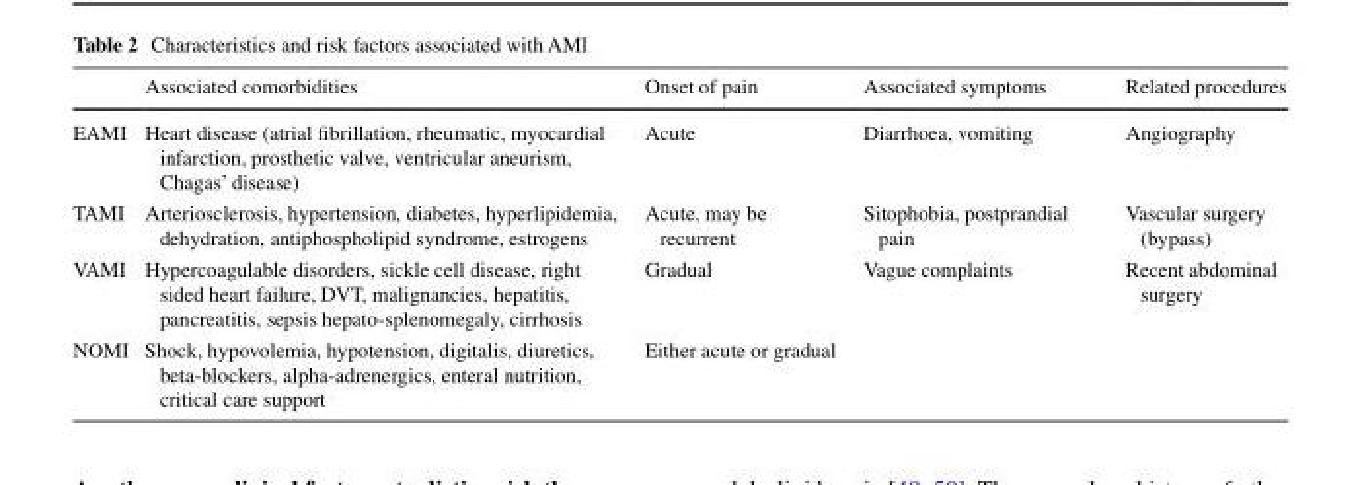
<table><thead><tr><td></td><td>Associated comorbidities</td><td>Onset of pain</td><td>Associated symptoms</td><td>Related procedures</td></tr></thead><tbody><tr><td>EAMI</td><td>Heart disease (atrial fibrillation, rheumatic, myocardial infarction, prosthetic valve, ventricular aneurism, Chagas’ disease)</td><td>Acute</td><td>Diarrhoea, vomiting</td><td>Angiography</td></tr><tr><td>TAMI</td><td>Arteriosclerosis, hypertension, diabetes, hyperlipidemia, dehydration, antiphospholipid syndrome, estrogens</td><td>Acute, may be recurrent</td><td>Sitophobia, postprandial pain</td><td>Vascular surgery (bypass)</td></tr><tr><td>VAMI</td><td>Hypercoagulable disorders, sickle cell disease, right sided heart failure, DVT, malignancies, hepatitis, pancreatitis, sepsis hepato-splenomegaly, cirrhosis</td><td>Gradual</td><td>Vague complaints</td><td>Recent abdominal surgery</td></tr><tr><td>NOMI</td><td>Shock, hypovolemia, hypotension, digitalis, diuretics, beta-blockers, alpha-adrenergics, enteral nutrition, critical care support</td><td>Either acute or gradual</td><td></td><td></td></tr></tbody></table>